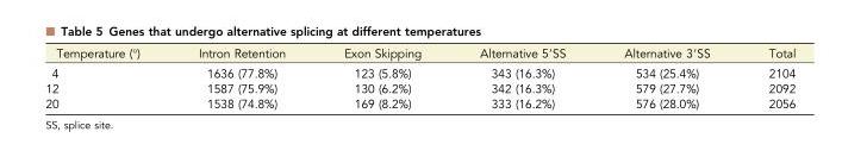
<table><thead><tr><td>Temperature (°)</td><td>Intron Retention</td><td>Exon Skipping</td><td>Alternative 5′SS</td><td>Alternative 3′SS</td><td>Total</td></tr></thead><tbody><tr><td>4</td><td>1636 (77.8%)</td><td>123 (5.8%)</td><td>343 (16.3%)</td><td>534 (25.4%)</td><td>2104</td></tr><tr><td>12</td><td>1587 (75.9%)</td><td>130 (6.2%)</td><td>342 (16.3%)</td><td>579 (27.7%)</td><td>2092</td></tr><tr><td>20</td><td>1538 (74.8%)</td><td>169 (8.2%)</td><td>333 (16.2%)</td><td>576 (28.0%)</td><td>2056</td></tr></tbody></table>